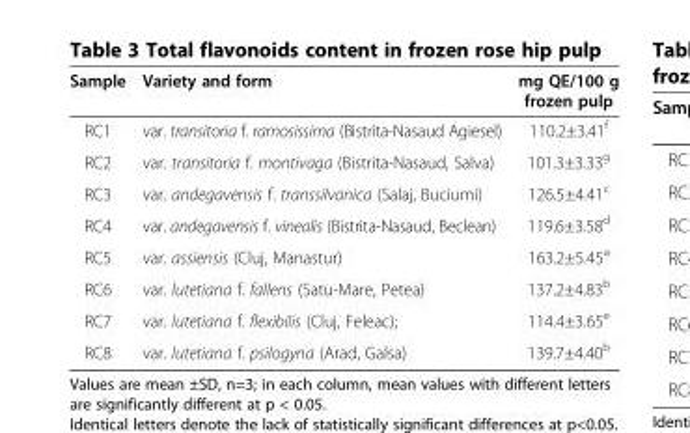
<table><thead><tr><td>Sample</td><td>Variety and form</td><td>mg QE/100 g frozen pulp</td></tr></thead><tbody><tr><td>RC1</td><td>var. transitoria f. ramosissima (Bistrita-Nasaud Agiesel)</td><td>110.2±3.41<sup>f</sup></td></tr><tr><td>RC2</td><td>var. transitoria f. montivaga (Bistrita-Nasaud, Salva)</td><td>101.3±3.33<sup>g</sup></td></tr><tr><td>RC3</td><td>var. andegavensis f. transsilvanica (Salaj, Buciumi)</td><td>126.5±4.41<sup>c</sup></td></tr><tr><td>RC4</td><td>var. andegavensis f. vinealis (Bistrita-Nasaud, Beclean)</td><td>119.6±3.58<sup>d</sup></td></tr><tr><td>RC5</td><td>var. assiensis (Cluj, Manastur)</td><td>163.2±5.45<sup>a</sup></td></tr><tr><td>RC6</td><td>var. lutetiana f. fallens (Satu-Mare, Petea)</td><td>137.2±4.83<sup>b</sup></td></tr><tr><td>RC7</td><td>var. lutetiana f. flexibilis (Cluj, Feleac);</td><td>114.4±3.65<sup>e</sup></td></tr><tr><td>RC8</td><td>var. lutetiana f. psilogyna (Arad, Galsa)</td><td>139.7±4.40<sup>b</sup></td></tr></tbody></table>